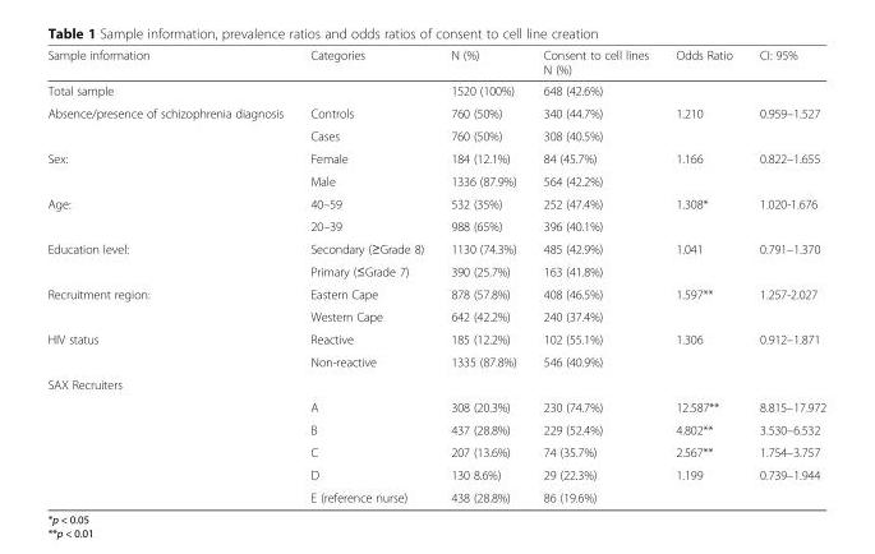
<table><thead><tr><td>Sample information</td><td>Categories</td><td>N (%)</td><td>Consent to cell lines N (%)</td><td>Odds Ratio</td><td>CI: 95%</td></tr></thead><tbody><tr><td>Total sample</td><td></td><td>1520 (100%)</td><td>648 (42.6%)</td><td></td><td></td></tr><tr><td rowspan="2">Absence/presence of schizophrenia diagnosis</td><td>Controls</td><td>760 (50%)</td><td>340 (44.7%)</td><td rowspan="2">1.210</td><td rowspan="2">0.959–1.527</td></tr><tr><td>Cases</td><td>760 (50%)</td><td>308 (40.5%)</td></tr><tr><td rowspan="2">Sex:</td><td>Female</td><td>184 (12.1%)</td><td>84 (45.7%)</td><td rowspan="2">1.166</td><td rowspan="2">0.822–1.655</td></tr><tr><td>Male</td><td>1336 (87.9%)</td><td>564 (42.2%)</td></tr><tr><td rowspan="2">Age:</td><td>40–59</td><td>532 (35%)</td><td>252 (47.4%)</td><td rowspan="2">1.308*</td><td rowspan="2">1.020-1.676</td></tr><tr><td>20–39</td><td>988 (65%)</td><td>396 (40.1%)</td></tr><tr><td rowspan="2">Education level:</td><td>Secondary (≥Grade 8)</td><td>1130 (74.3%)</td><td>485 (42.9%)</td><td rowspan="2">1.041</td><td rowspan="2">0.791–1.370</td></tr><tr><td>Primary (≤Grade 7)</td><td>390 (25.7%)</td><td>163 (41.8%)</td></tr><tr><td rowspan="2">Recruitment region:</td><td>Eastern Cape</td><td>878 (57.8%)</td><td>408 (46.5%)</td><td rowspan="2">1.597**</td><td rowspan="2">1.257-2.027</td></tr><tr><td>Western Cape</td><td>642 (42.2%)</td><td>240 (37.4%)</td></tr><tr><td rowspan="2">HIV status</td><td>Reactive</td><td>185 (12.2%)</td><td>102 (55.1%)</td><td rowspan="2">1.306</td><td rowspan="2">0.912–1.871</td></tr><tr><td>Non-reactive</td><td>1335 (87.8%)</td><td>546 (40.9%)</td></tr><tr><td colspan="6">SAX Recruiters</td></tr><tr><td rowspan="5"></td><td>A</td><td>308 (20.3%)</td><td>230 (74.7%)</td><td>12.587**</td><td>8.815–17.972</td></tr><tr><td>B</td><td>437 (28.8%)</td><td>229 (52.4%)</td><td>4.802**</td><td>3.530–6.532</td></tr><tr><td>C</td><td>207 (13.6%)</td><td>74 (35.7%)</td><td>2.567**</td><td>1.754–3.757</td></tr><tr><td>D</td><td>130 8.6%)</td><td>29 (22.3%)</td><td>1.199</td><td>0.739–1.944</td></tr><tr><td>E (reference nurse)</td><td>438 (28.8%)</td><td>86 (19.6%)</td><td></td><td></td></tr></tbody></table>